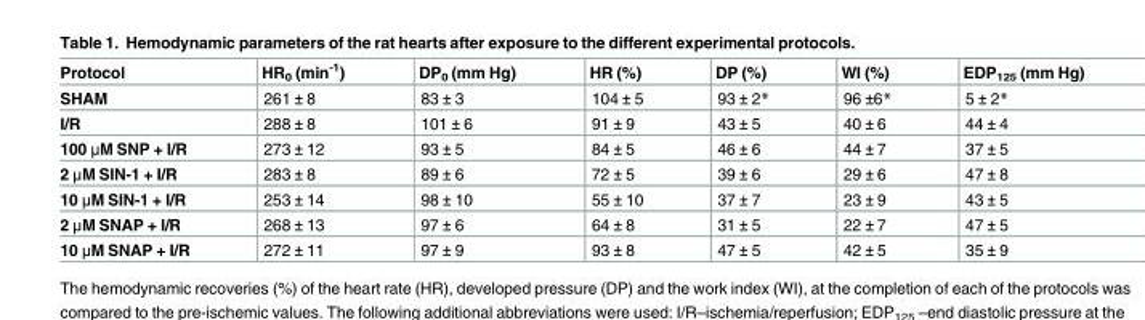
<table><thead><tr><td>Protocol</td><td>HR<sub>0</sub> (min<sup>-1</sup>)</td><td>DP<sub>0</sub> (mm Hg)</td><td>HR (%)</td><td>DP (%)</td><td>WI (%)</td><td>EDP<sub>125</sub> (mm Hg)</td></tr></thead><tbody><tr><td>SHAM</td><td>261 ± 8</td><td>83 ± 3</td><td>104 ± 5</td><td>93 ± 2*</td><td>96 ±6*</td><td>5 ± 2*</td></tr><tr><td>I/R</td><td>288 ± 8</td><td>101 ± 6</td><td>91 ± 9</td><td>43 ± 5</td><td>40 ± 6</td><td>44 ± 4</td></tr><tr><td>100 μM SNP + I/R</td><td>273 ± 12</td><td>93 ± 5</td><td>84 ± 5</td><td>46 ± 6</td><td>44 ± 7</td><td>37 ± 5</td></tr><tr><td>2 μM SIN-1 + I/R</td><td>283 ± 8</td><td>89 ± 6</td><td>72 ± 5</td><td>39 ± 6</td><td>29 ± 6</td><td>47 ± 8</td></tr><tr><td>10 μM SIN-1 + I/R</td><td>253 ± 14</td><td>98 ± 10</td><td>55 ± 10</td><td>37 ± 7</td><td>23 ± 9</td><td>43 ± 5</td></tr><tr><td>2 μM SNAP + I/R</td><td>268 ± 13</td><td>97 ± 6</td><td>64 ± 8</td><td>31 ± 5</td><td>22 ± 7</td><td>47 ± 5</td></tr><tr><td>10 μM SNAP + I/R</td><td>272 ± 11</td><td>97 ± 9</td><td>93 ± 8</td><td>47 ± 5</td><td>42 ± 5</td><td>35 ± 9</td></tr></tbody></table>